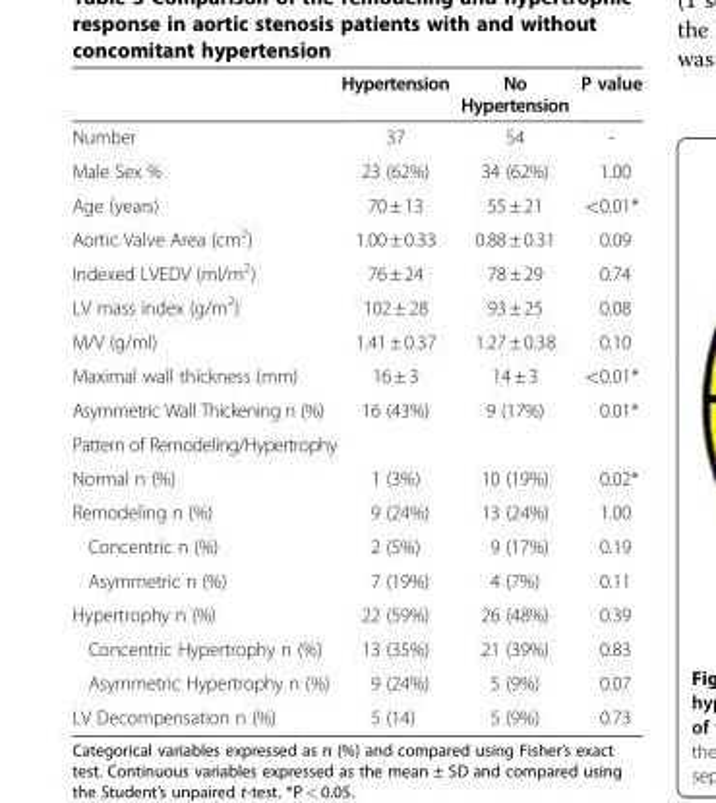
<table><thead><tr><td></td><td>Hypertension</td><td>No Hypertension</td><td>P value</td></tr></thead><tbody><tr><td>Number</td><td>37</td><td>54</td><td>-</td></tr><tr><td>Male Sex %</td><td>23 (62%)</td><td>34 (62%)</td><td>1.00</td></tr><tr><td>Age (years)</td><td>70 ± 13</td><td>55 ± 21</td><td>&lt;0.01*</td></tr><tr><td>Aortic Valve Area (cm<sup>2</sup>)</td><td>1.00 ± 0.33</td><td>0.88 ± 0.31</td><td>0.09</td></tr><tr><td>Indexed LVEDV (ml/m<sup>2</sup>)</td><td>76 ± 24</td><td>78 ± 29</td><td>0.74</td></tr><tr><td>LV mass index (g/m<sup>2</sup>)</td><td>102 ± 28</td><td>93 ± 25</td><td>0.08</td></tr><tr><td>M/V (g/ml)</td><td>1.41 ± 0.37</td><td>1.27 ± 0.38</td><td>0.10</td></tr><tr><td>Maximal wall thickness (mm)</td><td>16 ± 3</td><td>14 ± 3</td><td>&lt;0.01*</td></tr><tr><td>Asymmetric Wall Thickening n (%)</td><td>16 (43%)</td><td>9 (17%)</td><td>0.01*</td></tr><tr><td colspan="4">Pattern of Remodeling/Hypertrophy</td></tr><tr><td>Normal n (%)</td><td>1 (3%)</td><td>10 (19%)</td><td>0.02*</td></tr><tr><td>Remodeling n (%)</td><td>9 (24%)</td><td>13 (24%)</td><td>1.00</td></tr><tr><td>Concentric n (%)</td><td>2 (5%)</td><td>9 (17%)</td><td>0.19</td></tr><tr><td>Asymmetric n (%)</td><td>7 (19%)</td><td>4 (7%)</td><td>0.11</td></tr><tr><td>Hypertrophy n (%)</td><td>22 (59%)</td><td>26 (48%)</td><td>0.39</td></tr><tr><td>Concentric Hypertrophy n (%)</td><td>13 (35%)</td><td>21 (39%)</td><td>0.83</td></tr><tr><td>Asymmetric Hypertrophy n (%)</td><td>9 (24%)</td><td>5 (9%)</td><td>0.07</td></tr><tr><td>LV Decompensation n (%)</td><td>5 (14)</td><td>5 (9%)</td><td>0.73</td></tr></tbody></table>